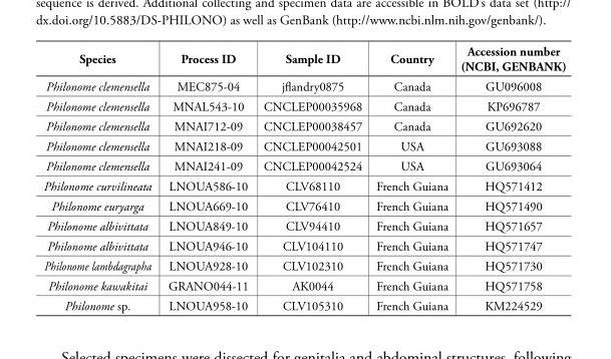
<table><thead><tr><td>Species</td><td>Process ID</td><td>Sample ID</td><td>Country</td><td>Accession number (NCBI, GENBANK)</td></tr></thead><tbody><tr><td>Philonome clemensella</td><td>MEC875-04</td><td>jflandry0875</td><td>Canada</td><td>GU096008</td></tr><tr><td>Philonome clemensella</td><td>MNAL543-10</td><td>CNCLEP00035968</td><td>Canada</td><td>KP696787</td></tr><tr><td>Philonome clemensella</td><td>MNAI712-09</td><td>CNCLEP00038457</td><td>Canada</td><td>GU692620</td></tr><tr><td>Philonome clemensella</td><td>MNAI218-09</td><td>CNCLEP00042501</td><td>USA</td><td>GU693088</td></tr><tr><td>Philonome clemensella</td><td>MNAI241-09</td><td>CNCLEP00042524</td><td>USA</td><td>GU693064</td></tr><tr><td>Philonome curvilineata</td><td>LNOUA586-10</td><td>CLV68110</td><td>French Guiana</td><td>HQ571412</td></tr><tr><td>Philonome euryarga</td><td>LNOUA669-10</td><td>CLV76410</td><td>French Guiana</td><td>HQ571490</td></tr><tr><td>Philonome albivittata</td><td>LNOUA849-10</td><td>CLV94410</td><td>French Guiana</td><td>HQ571657</td></tr><tr><td>Philonome albivittata</td><td>LNOUA946-10</td><td>CLV104110</td><td>French Guiana</td><td>HQ571747</td></tr><tr><td>Philonome lambdagrapha</td><td>LNOUA928-10</td><td>CLV102310</td><td>French Guiana</td><td>HQ571730</td></tr><tr><td>Philonome kawakitai</td><td>GRANO044-11</td><td>AK0044</td><td>French Guiana</td><td>HQ571758</td></tr><tr><td>Philonome sp.</td><td>LNOUA958-10</td><td>CLV105310</td><td>French Guiana</td><td>KM224529</td></tr></tbody></table>